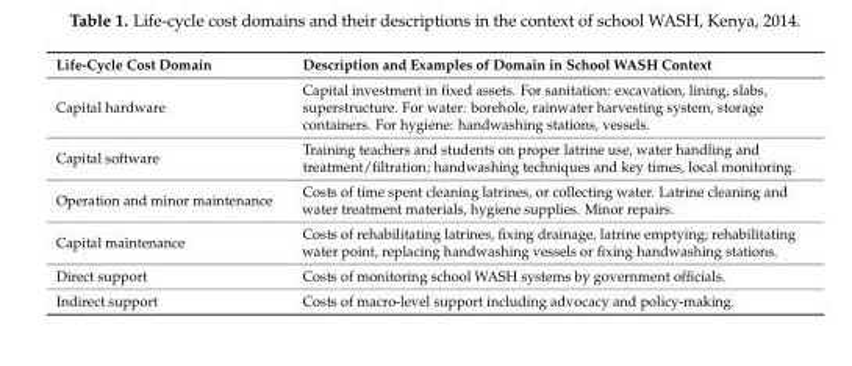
<table><thead><tr><td>Life-Cycle Cost Domain</td><td>Description and Examples of Domain in School WASH Context</td></tr></thead><tbody><tr><td>Capital hardware</td><td>Capital investment in fixed assets. For sanitation: excavation, lining, slabs, superstructure. For water: borehole, rainwater harvesting system, storage containers. For hygiene: handwashing stations, vessels.</td></tr><tr><td>Capital software</td><td>Training teachers and students on proper latrine use, water handling and treatment/filtration; handwashing techniques and key times, local monitoring.</td></tr><tr><td>Operation and minor maintenance</td><td>Costs of time spent cleaning latrines, or collecting water. Latrine cleaning and water treatment materials, hygiene supplies. Minor repairs.</td></tr><tr><td>Capital maintenance</td><td>Costs of rehabilitating latrines, fixing drainage, latrine emptying; rehabilitating water point, replacing handwashing vessels or fixing handwashing stations.</td></tr><tr><td>Direct support</td><td>Costs of monitoring school WASH systems by government officials.</td></tr><tr><td>Indirect support</td><td>Costs of macro-level support including advocacy and policy-making.</td></tr></tbody></table>